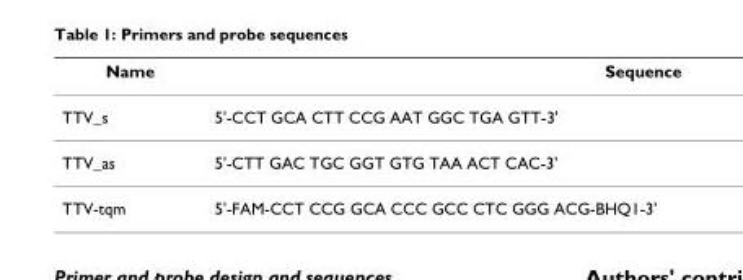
<table><thead><tr><td>Name</td><td>Sequence</td></tr></thead><tbody><tr><td>TTV_s</td><td>5&#x27;-CCT GCA CTT CCG AAT GGC TGA GTT-3&#x27;</td></tr><tr><td>TTV_as</td><td>5&#x27;-CTT GAC TGC GGT GTG TAA ACT CAC-3&#x27;</td></tr><tr><td>TTV-tqm</td><td>5&#x27;-FAM-CCT CCG GCA CCC GCC CTC GGG ACG-BHQ1-3&#x27;</td></tr></tbody></table>